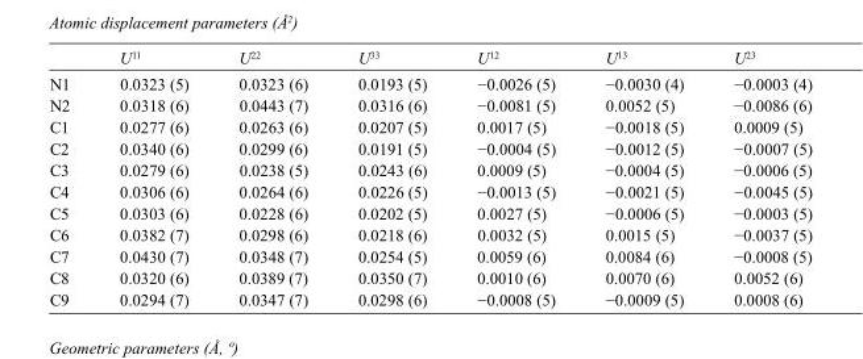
<table><thead><tr><td></td><td>U<sup>11</sup></td><td>U<sup>22</sup></td><td>U<sup>33</sup></td><td>U<sup>12</sup></td><td>U<sup>13</sup></td><td>U<sup>23</sup></td></tr></thead><tbody><tr><td>N1</td><td>0.0323 (5)</td><td>0.0323 (6)</td><td>0.0193 (5)</td><td>−0.0026 (5)</td><td>−0.0030 (4)</td><td>−0.0003 (4)</td></tr><tr><td>N2</td><td>0.0318 (6)</td><td>0.0443 (7)</td><td>0.0316 (6)</td><td>−0.0081 (5)</td><td>0.0052 (5)</td><td>−0.0086 (6)</td></tr><tr><td>C1</td><td>0.0277 (6)</td><td>0.0263 (6)</td><td>0.0207 (5)</td><td>0.0017 (5)</td><td>−0.0018 (5)</td><td>0.0009 (5)</td></tr><tr><td>C2</td><td>0.0340 (6)</td><td>0.0299 (6)</td><td>0.0191 (5)</td><td>−0.0004 (5)</td><td>−0.0012 (5)</td><td>−0.0007 (5)</td></tr><tr><td>C3</td><td>0.0279 (6)</td><td>0.0238 (5)</td><td>0.0243 (6)</td><td>0.0009 (5)</td><td>−0.0004 (5)</td><td>−0.0006 (5)</td></tr><tr><td>C4</td><td>0.0306 (6)</td><td>0.0264 (6)</td><td>0.0226 (5)</td><td>−0.0013 (5)</td><td>−0.0021 (5)</td><td>−0.0045 (5)</td></tr><tr><td>C5</td><td>0.0303 (6)</td><td>0.0228 (6)</td><td>0.0202 (5)</td><td>0.0027 (5)</td><td>−0.0006 (5)</td><td>−0.0003 (5)</td></tr><tr><td>C6</td><td>0.0382 (7)</td><td>0.0298 (6)</td><td>0.0218 (6)</td><td>0.0032 (5)</td><td>0.0015 (5)</td><td>−0.0037 (5)</td></tr><tr><td>C7</td><td>0.0430 (7)</td><td>0.0348 (7)</td><td>0.0254 (5)</td><td>0.0059 (6)</td><td>0.0084 (6)</td><td>−0.0008 (5)</td></tr><tr><td>C8</td><td>0.0320 (6)</td><td>0.0389 (7)</td><td>0.0350 (7)</td><td>0.0010 (6)</td><td>0.0070 (6)</td><td>0.0052 (6)</td></tr><tr><td>C9</td><td>0.0294 (7)</td><td>0.0347 (7)</td><td>0.0298 (6)</td><td>−0.0008 (5)</td><td>−0.0009 (5)</td><td>0.0008 (6)</td></tr></tbody></table>